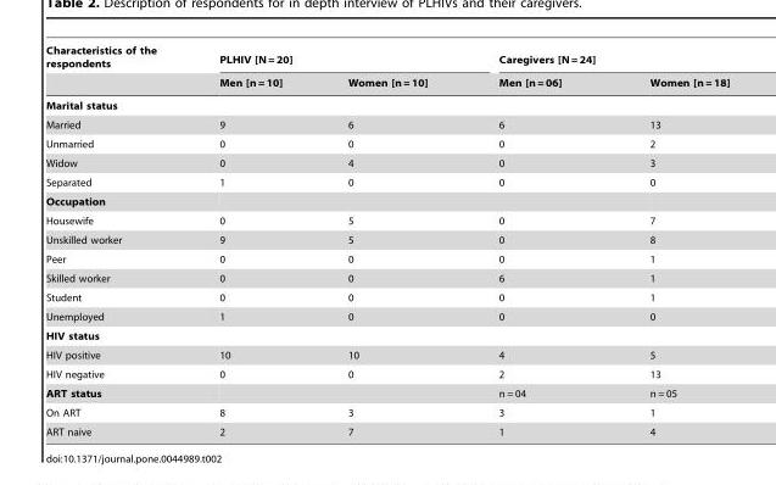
<table><thead><tr><td rowspan="2">Characteristics of the respondents</td><td colspan="2">PLHIV [N = 20]</td><td colspan="2">Caregivers [N = 24]</td></tr><tr><td>Men [n = 10]</td><td>Women [n = 10]</td><td>Men [n = 06]</td><td>Women [n = 18]</td></tr></thead><tbody><tr><td colspan="5">Marital status</td></tr><tr><td>Married</td><td>9</td><td>6</td><td>6</td><td>13</td></tr><tr><td>Unmarried</td><td>0</td><td>0</td><td>0</td><td>2</td></tr><tr><td>Widow</td><td>0</td><td>4</td><td>0</td><td>3</td></tr><tr><td>Separated</td><td>1</td><td>0</td><td>0</td><td>0</td></tr><tr><td colspan="5">Occupation</td></tr><tr><td>Housewife</td><td>0</td><td>5</td><td>0</td><td>7</td></tr><tr><td>Unskilled worker</td><td>9</td><td>5</td><td>0</td><td>8</td></tr><tr><td>Peer</td><td>0</td><td>0</td><td>0</td><td>1</td></tr><tr><td>Skilled worker</td><td>0</td><td>0</td><td>6</td><td>1</td></tr><tr><td>Student</td><td>0</td><td>0</td><td>0</td><td>1</td></tr><tr><td>Unemployed</td><td>1</td><td>0</td><td>0</td><td>0</td></tr><tr><td colspan="5">HIV status</td></tr><tr><td>HIV positive</td><td>10</td><td>10</td><td>4</td><td>5</td></tr><tr><td>HIV negative</td><td>0</td><td>0</td><td>2</td><td>13</td></tr><tr><td>ART status</td><td></td><td></td><td>n = 04</td><td>n = 05</td></tr><tr><td>On ART</td><td>8</td><td>3</td><td>3</td><td>1</td></tr><tr><td>ART naive</td><td>2</td><td>7</td><td>1</td><td>4</td></tr></tbody></table>